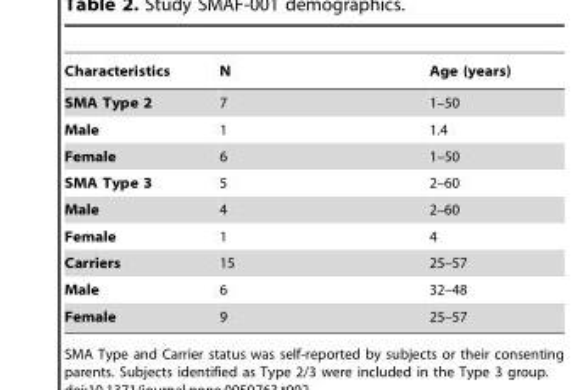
<table><thead><tr><td>Characteristics</td><td>N</td><td>Age (years)</td></tr></thead><tbody><tr><td>SMA Type 2</td><td>7</td><td>1–50</td></tr><tr><td>Male</td><td>1</td><td>1.4</td></tr><tr><td>Female</td><td>6</td><td>1–50</td></tr><tr><td>SMA Type 3</td><td>5</td><td>2–60</td></tr><tr><td>Male</td><td>4</td><td>2–60</td></tr><tr><td>Female</td><td>1</td><td>4</td></tr><tr><td>Carriers</td><td>15</td><td>25–57</td></tr><tr><td>Male</td><td>6</td><td>32–48</td></tr><tr><td>Female</td><td>9</td><td>25–57</td></tr></tbody></table>